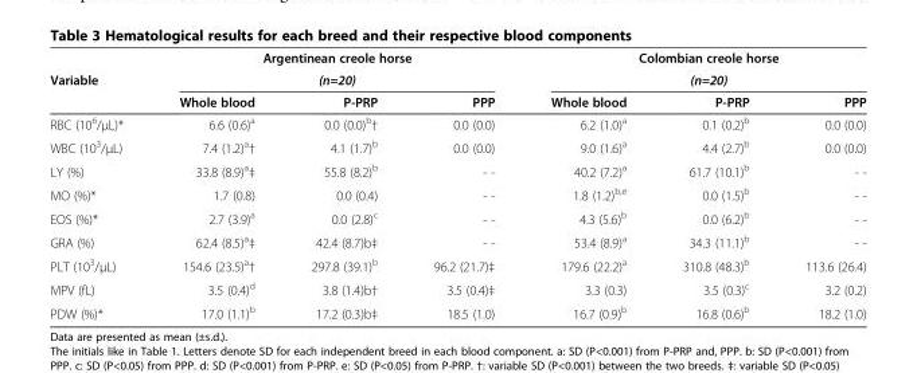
<table><thead><tr><td rowspan="3">Variable</td><td rowspan="2" colspan="3">Argentinean creole horse (n=20)</td><td rowspan="2" colspan="3">Colombian creole horse (n=20)</td></tr><tr></tr><tr><td>Whole blood</td><td>P-PRP</td><td>PPP</td><td>Whole blood</td><td>P-PRP</td><td>PPP</td></tr></thead><tbody><tr><td>RBC (10<sup>6</sup>/μL)*</td><td>6.6 (0.6)<sup>a</sup></td><td>0.0 (0.0)<sup>b</sup>†</td><td>0.0 (0.0)</td><td>6.2 (1.0)<sup>a</sup></td><td>0.1 (0.2)<sup>b</sup></td><td>0.0 (0.0)</td></tr><tr><td>WBC (10<sup>3</sup>/μL)</td><td>7.4 (1.2)<sup>a</sup>†</td><td>4.1 (1.7)<sup>b</sup></td><td>0.0 (0.0)</td><td>9.0 (1.6)<sup>a</sup></td><td>4.4 (2.7)<sup>b</sup></td><td>0.0 (0.0)</td></tr><tr><td>LY (%)</td><td>33.8 (8.9)<sup>a</sup>‡</td><td>55.8 (8.2)<sup>b</sup></td><td>- -</td><td>40.2 (7.2)<sup>a</sup></td><td>61.7 (10.1)<sup>b</sup></td><td>- -</td></tr><tr><td>MO (%)*</td><td>1.7 (0.8)</td><td>0.0 (0.4)</td><td>- -</td><td>1.8 (1.2)<sup>b,e</sup></td><td>0.0 (1.5)<sup>b</sup></td><td>- -</td></tr><tr><td>EOS (%)*</td><td>2.7 (3.9)<sup>a</sup></td><td>0.0 (2.8)<sup>c</sup></td><td>- -</td><td>4.3 (5.6)<sup>b</sup></td><td>0.0 (6.2)<sup>b</sup></td><td>- -</td></tr><tr><td>GRA (%)</td><td>62.4 (8.5)<sup>a</sup>‡</td><td>42.4 (8.7)b‡</td><td>- -</td><td>53.4 (8.9)<sup>a</sup></td><td>34.3 (11.1)<sup>b</sup></td><td>- -</td></tr><tr><td>PLT (10<sup>3</sup>/μL)</td><td>154.6 (23.5)<sup>a</sup>†</td><td>297.8 (39.1)<sup>b</sup></td><td>96.2 (21.7)‡</td><td>179.6 (22.2)<sup>a</sup></td><td>310.8 (48.3)<sup>b</sup></td><td>113.6 (26.4)</td></tr><tr><td>MPV (fL)</td><td>3.5 (0.4)<sup>d</sup></td><td>3.8 (1.4)b†</td><td>3.5 (0.4)‡</td><td>3.3 (0.3)</td><td>3.5 (0.3)<sup>c</sup></td><td>3.2 (0.2)</td></tr><tr><td>PDW (%)*</td><td>17.0 (1.1)<sup>b</sup></td><td>17.2 (0.3)b‡</td><td>18.5 (1.0)</td><td>16.7 (0.9)<sup>b</sup></td><td>16.8 (0.6)<sup>b</sup></td><td>18.2 (1.0)</td></tr></tbody></table>